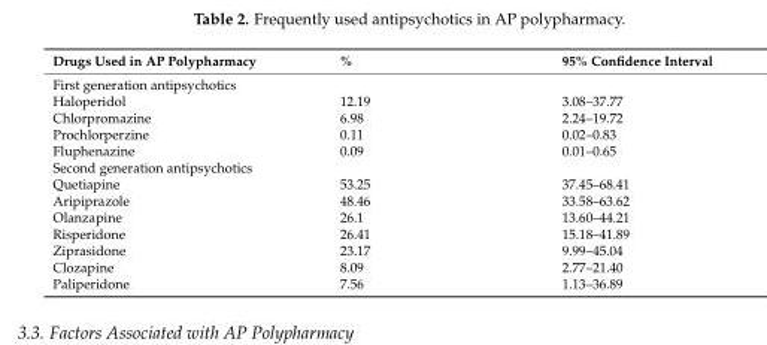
<table><thead><tr><td>Drugs Used in AP Polypharmacy</td><td>%</td><td>95% Confidence Interval</td></tr></thead><tbody><tr><td colspan="3">First generation antipsychotics</td></tr><tr><td>Haloperidol</td><td>12.19</td><td>3.08–37.77</td></tr><tr><td>Chlorpromazine</td><td>6.98</td><td>2.24–19.72</td></tr><tr><td>Prochlorperzine</td><td>0.11</td><td>0.02–0.83</td></tr><tr><td>Fluphenazine</td><td>0.09</td><td>0.01–0.65</td></tr><tr><td colspan="3">Second generation antipsychotics</td></tr><tr><td>Quetiapine</td><td>53.25</td><td>37.45–68.41</td></tr><tr><td>Aripiprazole</td><td>48.46</td><td>33.58–63.62</td></tr><tr><td>Olanzapine</td><td>26.1</td><td>13.60–44.21</td></tr><tr><td>Risperidone</td><td>26.41</td><td>15.18–41.89</td></tr><tr><td>Ziprasidone</td><td>23.17</td><td>9.99–45.04</td></tr><tr><td>Clozapine</td><td>8.09</td><td>2.77–21.40</td></tr><tr><td>Paliperidone</td><td>7.56</td><td>1.13–36.89</td></tr></tbody></table>